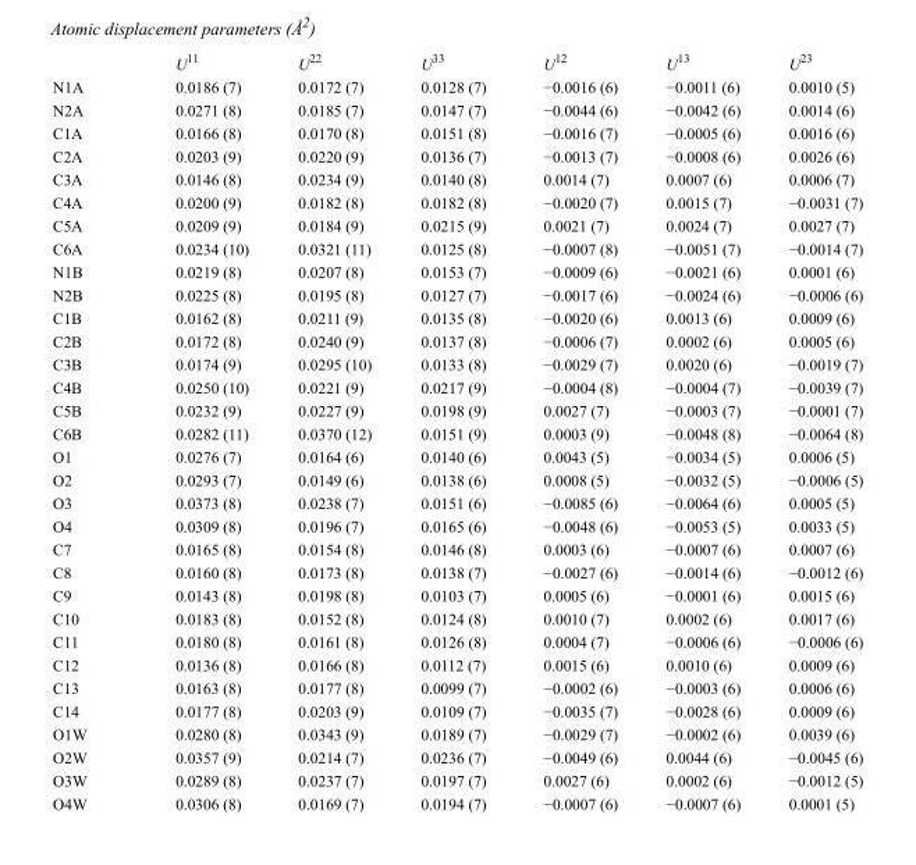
<table><thead><tr><td></td><td>U<sup>11</sup></td><td>U<sup>22</sup></td><td>U<sup>33</sup></td><td>U<sup>12</sup></td><td>U<sup>13</sup></td><td>U<sup>23</sup></td></tr></thead><tbody><tr><td>N1A</td><td>0.0186 (7)</td><td>0.0172 (7)</td><td>0.0128 (7)</td><td>−0.0016 (6)</td><td>−0.0011 (6)</td><td>0.0010 (5)</td></tr><tr><td>N2A</td><td>0.0271 (8)</td><td>0.0185 (7)</td><td>0.0147 (7)</td><td>−0.0044 (6)</td><td>−0.0042 (6)</td><td>0.0014 (6)</td></tr><tr><td>C1A</td><td>0.0166 (8)</td><td>0.0170 (8)</td><td>0.0151 (8)</td><td>−0.0016 (7)</td><td>−0.0005 (6)</td><td>0.0016 (6)</td></tr><tr><td>C2A</td><td>0.0203 (9)</td><td>0.0220 (9)</td><td>0.0136 (7)</td><td>−0.0013 (7)</td><td>−0.0008 (6)</td><td>0.0026 (6)</td></tr><tr><td>C3A</td><td>0.0146 (8)</td><td>0.0234 (9)</td><td>0.0140 (8)</td><td>0.0014 (7)</td><td>0.0007 (6)</td><td>0.0006 (7)</td></tr><tr><td>C4A</td><td>0.0200 (9)</td><td>0.0182 (8)</td><td>0.0182 (8)</td><td>−0.0020 (7)</td><td>0.0015 (7)</td><td>−0.0031 (7)</td></tr><tr><td>C5A</td><td>0.0209 (9)</td><td>0.0184 (9)</td><td>0.0215 (9)</td><td>0.0021 (7)</td><td>0.0024 (7)</td><td>0.0027 (7)</td></tr><tr><td>C6A</td><td>0.0234 (10)</td><td>0.0321 (11)</td><td>0.0125 (8)</td><td>−0.0007 (8)</td><td>−0.0051 (7)</td><td>−0.0014 (7)</td></tr><tr><td>N1B</td><td>0.0219 (8)</td><td>0.0207 (8)</td><td>0.0153 (7)</td><td>−0.0009 (6)</td><td>−0.0021 (6)</td><td>0.0001 (6)</td></tr><tr><td>N2B</td><td>0.0225 (8)</td><td>0.0195 (8)</td><td>0.0127 (7)</td><td>−0.0017 (6)</td><td>−0.0024 (6)</td><td>−0.0006 (6)</td></tr><tr><td>C1B</td><td>0.0162 (8)</td><td>0.0211 (9)</td><td>0.0135 (8)</td><td>−0.0020 (6)</td><td>0.0013 (6)</td><td>0.0009 (6)</td></tr><tr><td>C2B</td><td>0.0172 (8)</td><td>0.0240 (9)</td><td>0.0137 (8)</td><td>−0.0006 (7)</td><td>0.0002 (6)</td><td>0.0005 (6)</td></tr><tr><td>C3B</td><td>0.0174 (9)</td><td>0.0295 (10)</td><td>0.0133 (8)</td><td>−0.0029 (7)</td><td>0.0020 (6)</td><td>−0.0019 (7)</td></tr><tr><td>C4B</td><td>0.0250 (10)</td><td>0.0221 (9)</td><td>0.0217 (9)</td><td>−0.0004 (8)</td><td>−0.0004 (7)</td><td>−0.0039 (7)</td></tr><tr><td>C5B</td><td>0.0232 (9)</td><td>0.0227 (9)</td><td>0.0198 (9)</td><td>0.0027 (7)</td><td>−0.0003 (7)</td><td>−0.0001 (7)</td></tr><tr><td>C6B</td><td>0.0282 (11)</td><td>0.0370 (12)</td><td>0.0151 (9)</td><td>0.0003 (9)</td><td>−0.0048 (8)</td><td>−0.0064 (8)</td></tr><tr><td>O1</td><td>0.0276 (7)</td><td>0.0164 (6)</td><td>0.0140 (6)</td><td>0.0043 (5)</td><td>−0.0034 (5)</td><td>0.0006 (5)</td></tr><tr><td>O2</td><td>0.0293 (7)</td><td>0.0149 (6)</td><td>0.0138 (6)</td><td>0.0008 (5)</td><td>−0.0032 (5)</td><td>−0.0006 (5)</td></tr><tr><td>O3</td><td>0.0373 (8)</td><td>0.0238 (7)</td><td>0.0151 (6)</td><td>−0.0085 (6)</td><td>−0.0064 (6)</td><td>0.0005 (5)</td></tr><tr><td>O4</td><td>0.0309 (8)</td><td>0.0196 (7)</td><td>0.0165 (6)</td><td>−0.0048 (6)</td><td>−0.0053 (5)</td><td>0.0033 (5)</td></tr><tr><td>C7</td><td>0.0165 (8)</td><td>0.0154 (8)</td><td>0.0146 (8)</td><td>0.0003 (6)</td><td>−0.0007 (6)</td><td>0.0007 (6)</td></tr><tr><td>C8</td><td>0.0160 (8)</td><td>0.0173 (8)</td><td>0.0138 (7)</td><td>−0.0027 (6)</td><td>−0.0014 (6)</td><td>−0.0012 (6)</td></tr><tr><td>C9</td><td>0.0143 (8)</td><td>0.0198 (8)</td><td>0.0103 (7)</td><td>0.0005 (6)</td><td>−0.0001 (6)</td><td>0.0015 (6)</td></tr><tr><td>C10</td><td>0.0183 (8)</td><td>0.0152 (8)</td><td>0.0124 (8)</td><td>0.0010 (7)</td><td>0.0002 (6)</td><td>0.0017 (6)</td></tr><tr><td>C11</td><td>0.0180 (8)</td><td>0.0161 (8)</td><td>0.0126 (8)</td><td>0.0004 (7)</td><td>−0.0006 (6)</td><td>−0.0006 (6)</td></tr><tr><td>C12</td><td>0.0136 (8)</td><td>0.0166 (8)</td><td>0.0112 (7)</td><td>0.0015 (6)</td><td>0.0010 (6)</td><td>0.0009 (6)</td></tr><tr><td>C13</td><td>0.0163 (8)</td><td>0.0177 (8)</td><td>0.0099 (7)</td><td>−0.0002 (6)</td><td>−0.0003 (6)</td><td>0.0006 (6)</td></tr><tr><td>C14</td><td>0.0177 (8)</td><td>0.0203 (9)</td><td>0.0109 (7)</td><td>−0.0035 (7)</td><td>−0.0028 (6)</td><td>0.0009 (6)</td></tr><tr><td>O1W</td><td>0.0280 (8)</td><td>0.0343 (9)</td><td>0.0189 (7)</td><td>−0.0029 (7)</td><td>−0.0002 (6)</td><td>0.0039 (6)</td></tr><tr><td>O2W</td><td>0.0357 (9)</td><td>0.0214 (7)</td><td>0.0236 (7)</td><td>−0.0049 (6)</td><td>0.0044 (6)</td><td>−0.0045 (6)</td></tr><tr><td>O3W</td><td>0.0289 (8)</td><td>0.0237 (7)</td><td>0.0197 (7)</td><td>0.0027 (6)</td><td>0.0002 (6)</td><td>−0.0012 (5)</td></tr><tr><td>O4W</td><td>0.0306 (8)</td><td>0.0169 (7)</td><td>0.0194 (7)</td><td>−0.0007 (6)</td><td>−0.0007 (6)</td><td>0.0001 (5)</td></tr></tbody></table>